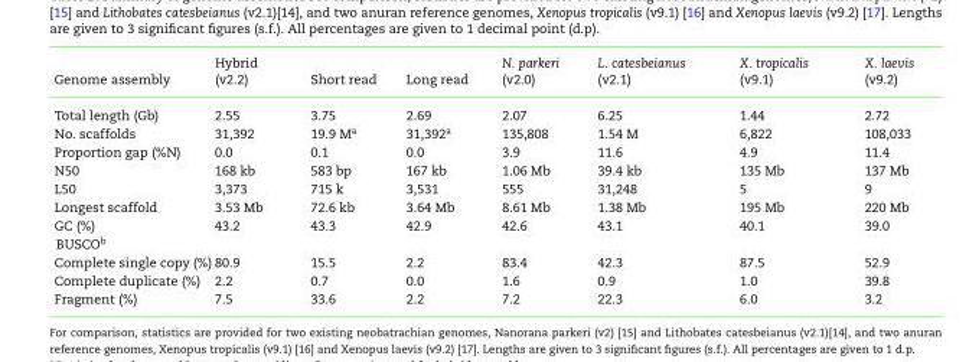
<table><thead><tr><td>Genome assembly</td><td>Hybrid (v2.2)</td><td>Short read</td><td>Long read</td><td>N. parkeri (v2.0)</td><td>L. catesbeianus (v2.1)</td><td>X. tropicalis (v9.1)</td><td>X. laevis (v9.2)</td></tr></thead><tbody><tr><td>Total length (Gb)</td><td>2.55</td><td>3.75</td><td>2.69</td><td>2.07</td><td>6.25</td><td>1.44</td><td>2.72</td></tr><tr><td>No. scaffolds</td><td>31,392</td><td>19.9 M<sup>a</sup></td><td>31,392<sup>a</sup></td><td>135,808</td><td>1.54 M</td><td>6,822</td><td>108,033</td></tr><tr><td>Proportion gap (%N)</td><td>0.0</td><td>0.1</td><td>0.0</td><td>3.9</td><td>11.6</td><td>4.9</td><td>11.4</td></tr><tr><td>N50</td><td>168 kb</td><td>583 bp</td><td>167 kb</td><td>1.06 Mb</td><td>39.4 kb</td><td>135 Mb</td><td>137 Mb</td></tr><tr><td>L50</td><td>3,373</td><td>715 k</td><td>3,531</td><td>555</td><td>31,248</td><td>5</td><td>9</td></tr><tr><td>Longest scaffold</td><td>3.53 Mb</td><td>72.6 kb</td><td>3.64 Mb</td><td>8.61 Mb</td><td>1.38 Mb</td><td>195 Mb</td><td>220 Mb</td></tr><tr><td>GC (%)</td><td>43.2</td><td>43.3</td><td>42.9</td><td>42.6</td><td>43.1</td><td>40.1</td><td>39.0</td></tr><tr><td colspan="8">BUSCO<sup>b</sup></td></tr><tr><td>Complete single copy (%)</td><td>80.9</td><td>15.5</td><td>2.2</td><td>83.4</td><td>42.3</td><td>87.5</td><td>52.9</td></tr><tr><td>Complete duplicate (%)</td><td>2.2</td><td>0.7</td><td>0.0</td><td>1.6</td><td>0.9</td><td>1.0</td><td>39.8</td></tr><tr><td>Fragment (%)</td><td>7.5</td><td>33.6</td><td>2.2</td><td>7.2</td><td>22.3</td><td>6.0</td><td>3.2</td></tr></tbody></table>